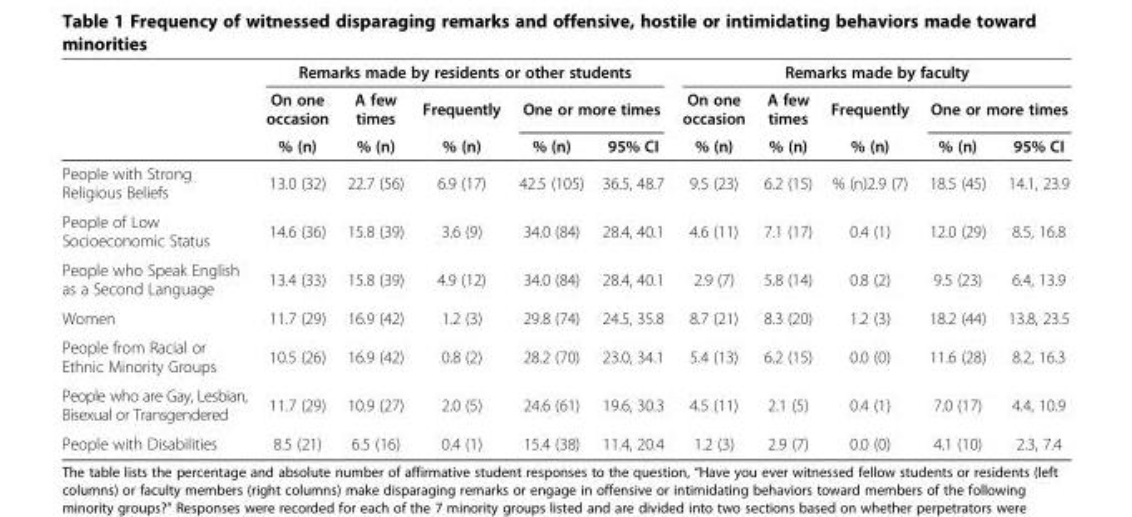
<table><thead><tr><td rowspan="3"></td><td colspan="5">Remarks made by residents or other students</td><td colspan="5">Remarks made by faculty</td></tr><tr><td rowspan="2">On one occasion % (n)</td><td rowspan="2">A few times % (n)</td><td rowspan="2">Frequently % (n)</td><td colspan="2">One or more times</td><td rowspan="2">On one occasion % (n)</td><td rowspan="2">A few times % (n)</td><td rowspan="2">Frequently % (n)</td><td colspan="2">One or more times</td></tr><tr><td>% (n)</td><td>95% CI</td><td>% (n)</td><td>95% CI</td></tr></thead><tbody><tr><td>People with Strong Religious Beliefs</td><td>13.0 (32)</td><td>22.7 (56)</td><td>6.9 (17)</td><td>42.5 (105)</td><td>36.5, 48.7</td><td>9.5 (23)</td><td>6.2 (15)</td><td>% (n)2.9 (7)</td><td>18.5 (45)</td><td>14.1, 23.9</td></tr><tr><td>People of Low Socioeconomic Status</td><td>14.6 (36)</td><td>15.8 (39)</td><td>3.6 (9)</td><td>34.0 (84)</td><td>28.4, 40.1</td><td>4.6 (11)</td><td>7.1 (17)</td><td>0.4 (1)</td><td>12.0 (29)</td><td>8.5, 16.8</td></tr><tr><td>People who Speak English as a Second Language</td><td>13.4 (33)</td><td>15.8 (39)</td><td>4.9 (12)</td><td>34.0 (84)</td><td>28.4, 40.1</td><td>2.9 (7)</td><td>5.8 (14)</td><td>0.8 (2)</td><td>9.5 (23)</td><td>6.4, 13.9</td></tr><tr><td>Women</td><td>11.7 (29)</td><td>16.9 (42)</td><td>1.2 (3)</td><td>29.8 (74)</td><td>24.5, 35.8</td><td>8.7 (21)</td><td>8.3 (20)</td><td>1.2 (3)</td><td>18.2 (44)</td><td>13.8, 23.5</td></tr><tr><td>People from Racial or Ethnic Minority Groups</td><td>10.5 (26)</td><td>16.9 (42)</td><td>0.8 (2)</td><td>28.2 (70)</td><td>23.0, 34.1</td><td>5.4 (13)</td><td>6.2 (15)</td><td>0.0 (0)</td><td>11.6 (28)</td><td>8.2, 16.3</td></tr><tr><td>People who are Gay, Lesbian, Bisexual or Transgendered</td><td>11.7 (29)</td><td>10.9 (27)</td><td>2.0 (5)</td><td>24.6 (61)</td><td>19.6, 30.3</td><td>4.5 (11)</td><td>2.1 (5)</td><td>0.4 (1)</td><td>7.0 (17)</td><td>4.4, 10.9</td></tr><tr><td>People with Disabilities</td><td>8.5 (21)</td><td>6.5 (16)</td><td>0.4 (1)</td><td>15.4 (38)</td><td>11.4, 20.4</td><td>1.2 (3)</td><td>2.9 (7)</td><td>0.0 (0)</td><td>4.1 (10)</td><td>2.3, 7.4</td></tr></tbody></table>